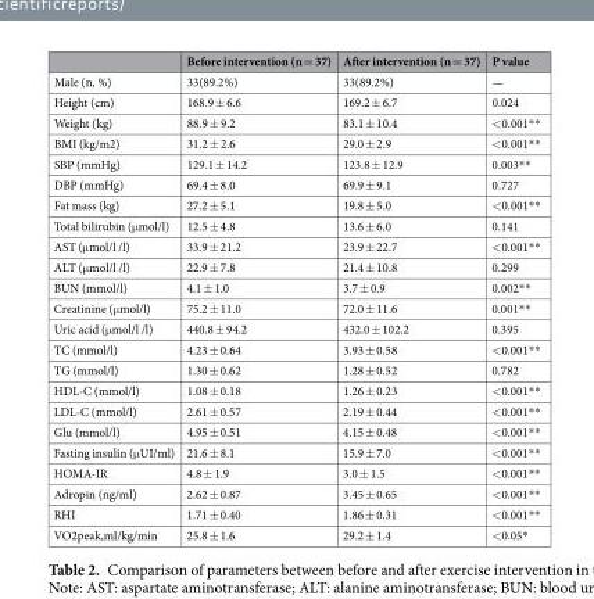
<table><thead><tr><td></td><td>Before intervention (n = 37)</td><td>After intervention (n = 37)</td><td>P value</td></tr></thead><tbody><tr><td>Male (n, %)</td><td>33(89.2%)</td><td>33(89.2%)</td><td>—</td></tr><tr><td>Height (cm)</td><td>168.9 ± 6.6</td><td>169.2 ± 6.7</td><td>0.024</td></tr><tr><td>Weight (kg)</td><td>88.9 ± 9.2</td><td>83.1 ± 10.4</td><td>&lt;0.001**</td></tr><tr><td>BMI (kg/m2)</td><td>31.2 ± 2.6</td><td>29.0 ± 2.9</td><td>&lt;0.001**</td></tr><tr><td>SBP (mmHg)</td><td>129.1 ± 14.2</td><td>123.8 ± 12.9</td><td>0.003**</td></tr><tr><td>DBP (mmHg)</td><td>69.4 ± 8.0</td><td>69.9 ± 9.1</td><td>0.727</td></tr><tr><td>Fat mass (kg)</td><td>27.2 ± 5.1</td><td>19.8 ± 5.0</td><td>&lt;0.001**</td></tr><tr><td>Total bilirubin (μmol/l)</td><td>12.5 ± 4.8</td><td>13.6 ± 6.0</td><td>0.141</td></tr><tr><td>AST (μmol/l /l)</td><td>33.9 ± 21.2</td><td>23.9 ± 22.7</td><td>&lt;0.001**</td></tr><tr><td>ALT (μmol/l /l)</td><td>22.9 ± 7.8</td><td>21.4 ± 10.8</td><td>0.299</td></tr><tr><td>BUN (mmol/l)</td><td>4.1 ± 1.0</td><td>3.7 ± 0.9</td><td>0.002**</td></tr><tr><td>Creatinine (μmol/l)</td><td>75.2 ± 11.0</td><td>72.0 ± 11.6</td><td>0.001**</td></tr><tr><td>Uric acid (μmol/l /l)</td><td>440.8 ± 94.2</td><td>432.0 ± 102.2</td><td>0.395</td></tr><tr><td>TC (mmol/l)</td><td>4.23 ± 0.64</td><td>3.93 ± 0.58</td><td>&lt;0.001**</td></tr><tr><td>TG (mmol/l)</td><td>1.30 ± 0.62</td><td>1.28 ± 0.52</td><td>0.782</td></tr><tr><td>HDL-C (mmol/l)</td><td>1.08 ± 0.18</td><td>1.26 ± 0.23</td><td>&lt;0.001**</td></tr><tr><td>LDL-C (mmol/l)</td><td>2.61 ± 0.57</td><td>2.19 ± 0.44</td><td>&lt;0.001**</td></tr><tr><td>Glu (mmol/l)</td><td>4.95 ± 0.51</td><td>4.15 ± 0.48</td><td>&lt;0.001**</td></tr><tr><td>Fasting insulin (μUI/ml)</td><td>21.6 ± 8.1</td><td>15.9 ± 7.0</td><td>&lt;0.001**</td></tr><tr><td>HOMA-IR</td><td>4.8 ± 1.9</td><td>3.0 ± 1.5</td><td>&lt;0.001**</td></tr><tr><td>Adropin (ng/ml)</td><td>2.62 ± 0.87</td><td>3.45 ± 0.65</td><td>&lt;0.001**</td></tr><tr><td>RHI</td><td>1.71 ± 0.40</td><td>1.86 ± 0.31</td><td>&lt;0.001**</td></tr><tr><td>VO2peak,ml/kg/min</td><td>25.8 ± 1.6</td><td>29.2 ± 1.4</td><td>&lt;0.05*</td></tr></tbody></table>